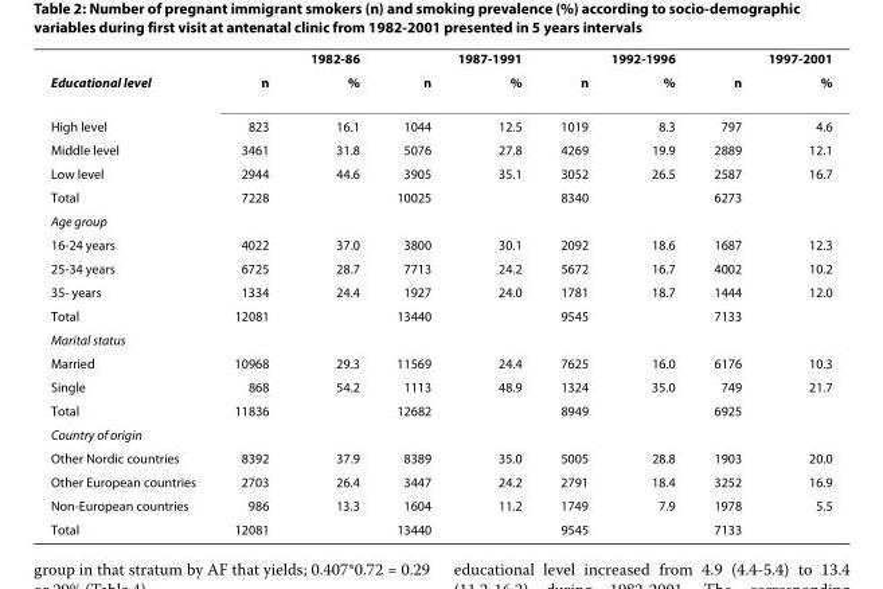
<table><thead><tr><td rowspan="2">Educational level</td><td colspan="2">1982-86</td><td colspan="2">1987-1991</td><td colspan="2">1992-1996</td><td colspan="2">1997-2001</td></tr><tr><td>n</td><td>%</td><td>n</td><td>%</td><td>n</td><td>%</td><td>n</td><td>%</td></tr></thead><tbody><tr><td>High level</td><td>823</td><td>16.1</td><td>1044</td><td>12.5</td><td>1019</td><td>8.3</td><td>797</td><td>4.6</td></tr><tr><td>Middle level</td><td>3461</td><td>31.8</td><td>5076</td><td>27.8</td><td>4269</td><td>19.9</td><td>2889</td><td>12.1</td></tr><tr><td>Low level</td><td>2944</td><td>44.6</td><td>3905</td><td>35.1</td><td>3052</td><td>26.5</td><td>2587</td><td>16.7</td></tr><tr><td>Total</td><td>7228</td><td></td><td>10025</td><td></td><td>8340</td><td></td><td>6273</td><td></td></tr><tr><td colspan="9">Age group</td></tr><tr><td>16-24 years</td><td>4022</td><td>37.0</td><td>3800</td><td>30.1</td><td>2092</td><td>18.6</td><td>1687</td><td>12.3</td></tr><tr><td>25-34 years</td><td>6725</td><td>28.7</td><td>7713</td><td>24.2</td><td>5672</td><td>16.7</td><td>4002</td><td>10.2</td></tr><tr><td>35- years</td><td>1334</td><td>24.4</td><td>1927</td><td>24.0</td><td>1781</td><td>18.7</td><td>1444</td><td>12.0</td></tr><tr><td>Total</td><td>12081</td><td></td><td>13440</td><td></td><td>9545</td><td></td><td>7133</td><td></td></tr><tr><td colspan="9">Marital status</td></tr><tr><td>Married</td><td>10968</td><td>29.3</td><td>11569</td><td>24.4</td><td>7625</td><td>16.0</td><td>6176</td><td>10.3</td></tr><tr><td>Single</td><td>868</td><td>54.2</td><td>1113</td><td>48.9</td><td>1324</td><td>35.0</td><td>749</td><td>21.7</td></tr><tr><td>Total</td><td>11836</td><td></td><td>12682</td><td></td><td>8949</td><td></td><td>6925</td><td></td></tr><tr><td colspan="9">Country of origin</td></tr><tr><td>Other Nordic countries</td><td>8392</td><td>37.9</td><td>8389</td><td>35.0</td><td>5005</td><td>28.8</td><td>1903</td><td>20.0</td></tr><tr><td>Other European countries</td><td>2703</td><td>26.4</td><td>3447</td><td>24.2</td><td>2791</td><td>18.4</td><td>3252</td><td>16.9</td></tr><tr><td>Non-European countries</td><td>986</td><td>13.3</td><td>1604</td><td>11.2</td><td>1749</td><td>7.9</td><td>1978</td><td>5.5</td></tr><tr><td>Total</td><td>12081</td><td></td><td>13440</td><td></td><td>9545</td><td></td><td>7133</td><td></td></tr></tbody></table>